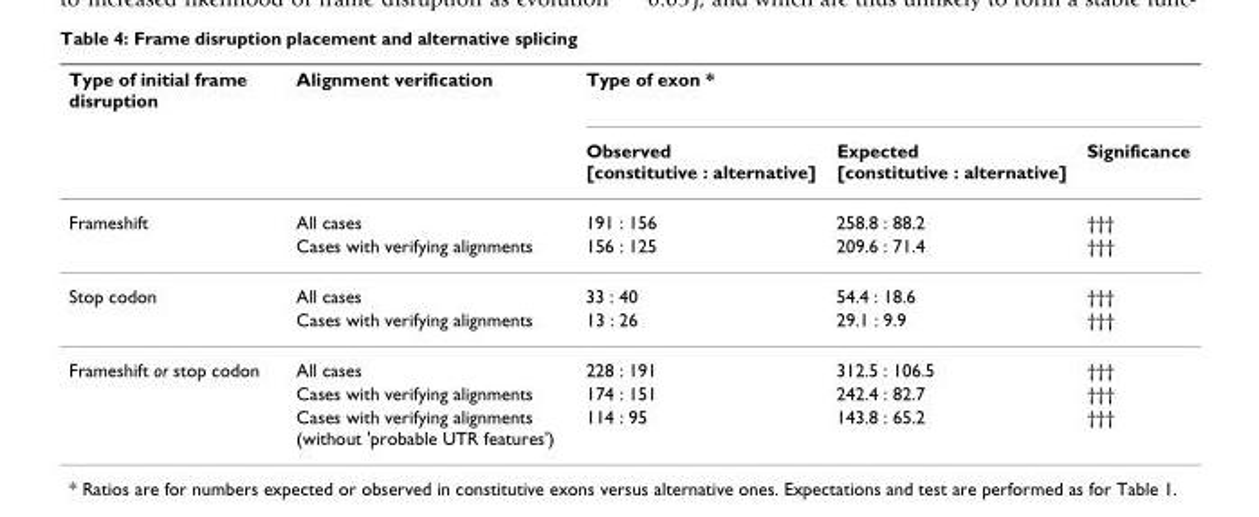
<table><thead><tr><td rowspan="2">Type of initial frame disruption</td><td rowspan="2">Alignment verification</td><td rowspan="2">Type of exon * Observed [constitutive : alternative]</td><td rowspan="2">Expected [constitutive : alternative]</td><td rowspan="2">Significance</td></tr><tr></tr></thead><tbody><tr><td rowspan="2">Frameshift</td><td>All cases</td><td>191 : 156</td><td>258.8 : 88.2</td><td>†††</td></tr><tr><td>Cases with verifying alignments</td><td>156 : 125</td><td>209.6 : 71.4</td><td>†††</td></tr><tr><td rowspan="2">Stop codon</td><td>All cases</td><td>33 : 40</td><td>54.4 : 18.6</td><td>†††</td></tr><tr><td>Cases with verifying alignments</td><td>13 : 26</td><td>29.1 : 9.9</td><td>†††</td></tr><tr><td rowspan="3">Frameshift or stop codon</td><td>All cases</td><td>228 : 191</td><td>312.5 : 106.5</td><td>†††</td></tr><tr><td>Cases with verifying alignments</td><td>174 : 151</td><td>242.4 : 82.7</td><td>†††</td></tr><tr><td>Cases with verifying alignments (without &#x27;probable UTR features&#x27;)</td><td>114 : 95</td><td>143.8 : 65.2</td><td>†††</td></tr></tbody></table>